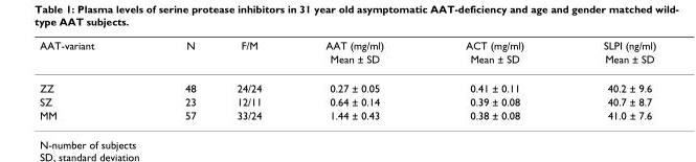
<table><thead><tr><td rowspan="2">AAT-variant</td><td rowspan="2">N</td><td rowspan="2">F/M</td><td rowspan="2">AAT (mg/ml) Mean ± SD</td><td rowspan="2">ACT (mg/ml) Mean ± SD</td><td rowspan="2">SLPI (ng/ml) Mean ± SD</td></tr><tr></tr></thead><tbody><tr><td>ZZ</td><td>48</td><td>24/24</td><td>0.27 ± 0.05</td><td>0.41 ± 0.11</td><td>40.2 ± 9.6</td></tr><tr><td>SZ</td><td>23</td><td>12/11</td><td>0.64 ± 0.14</td><td>0.39 ± 0.08</td><td>40.7 ± 8.7</td></tr><tr><td>MM</td><td>57</td><td>33/24</td><td>1.44 ± 0.43</td><td>0.38 ± 0.08</td><td>41.0 ± 7.6</td></tr></tbody></table>